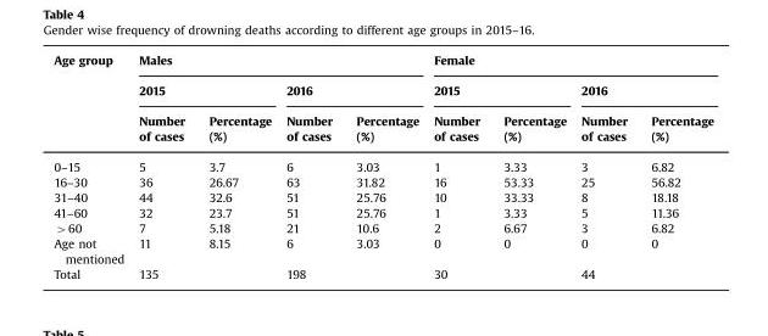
<table><thead><tr><td rowspan="3">Age group</td><td colspan="4">Males</td><td colspan="4">Female</td></tr><tr><td colspan="2">2015</td><td colspan="2">2016</td><td colspan="2">2015</td><td colspan="2">2016</td></tr><tr><td>Number of cases</td><td>Percentage (%)</td><td>Number of cases</td><td>Percentage (%)</td><td>Number of cases</td><td>Percentage (%)</td><td>Number of cases</td><td>Percentage (%)</td></tr></thead><tbody><tr><td>0–15</td><td>5</td><td>3.7</td><td>6</td><td>3.03</td><td>1</td><td>3.33</td><td>3</td><td>6.82</td></tr><tr><td>16–30</td><td>36</td><td>26.67</td><td>63</td><td>31.82</td><td>16</td><td>53.33</td><td>25</td><td>56.82</td></tr><tr><td>31–40</td><td>44</td><td>32.6</td><td>51</td><td>25.76</td><td>10</td><td>33.33</td><td>8</td><td>18.18</td></tr><tr><td>41–60</td><td>32</td><td>23.7</td><td>51</td><td>25.76</td><td>1</td><td>3.33</td><td>5</td><td>11.36</td></tr><tr><td>&gt;60</td><td>7</td><td>5.18</td><td>21</td><td>10.6</td><td>2</td><td>6.67</td><td>3</td><td>6.82</td></tr><tr><td>Age not mentioned</td><td>11</td><td>8.15</td><td>6</td><td>3.03</td><td>0</td><td>0</td><td>0</td><td>0</td></tr><tr><td>Total</td><td>135</td><td></td><td>198</td><td></td><td>30</td><td></td><td>44</td><td></td></tr></tbody></table>